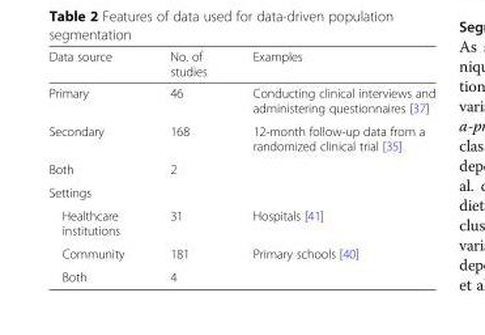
<table><thead><tr><td>Data source</td><td>No. of studies</td><td>Examples</td></tr></thead><tbody><tr><td>Primary</td><td>46</td><td>Conducting clinical interviews and administering questionnaires [37]</td></tr><tr><td>Secondary</td><td>168</td><td>12-month follow-up data from a randomized clinical trial [35]</td></tr><tr><td>Both</td><td>2</td><td></td></tr><tr><td colspan="3">Settings</td></tr><tr><td>Healthcare institutions</td><td>31</td><td>Hospitals [41]</td></tr><tr><td>Community</td><td>181</td><td>Primary schools [40]</td></tr><tr><td>Both</td><td>4</td><td></td></tr></tbody></table>